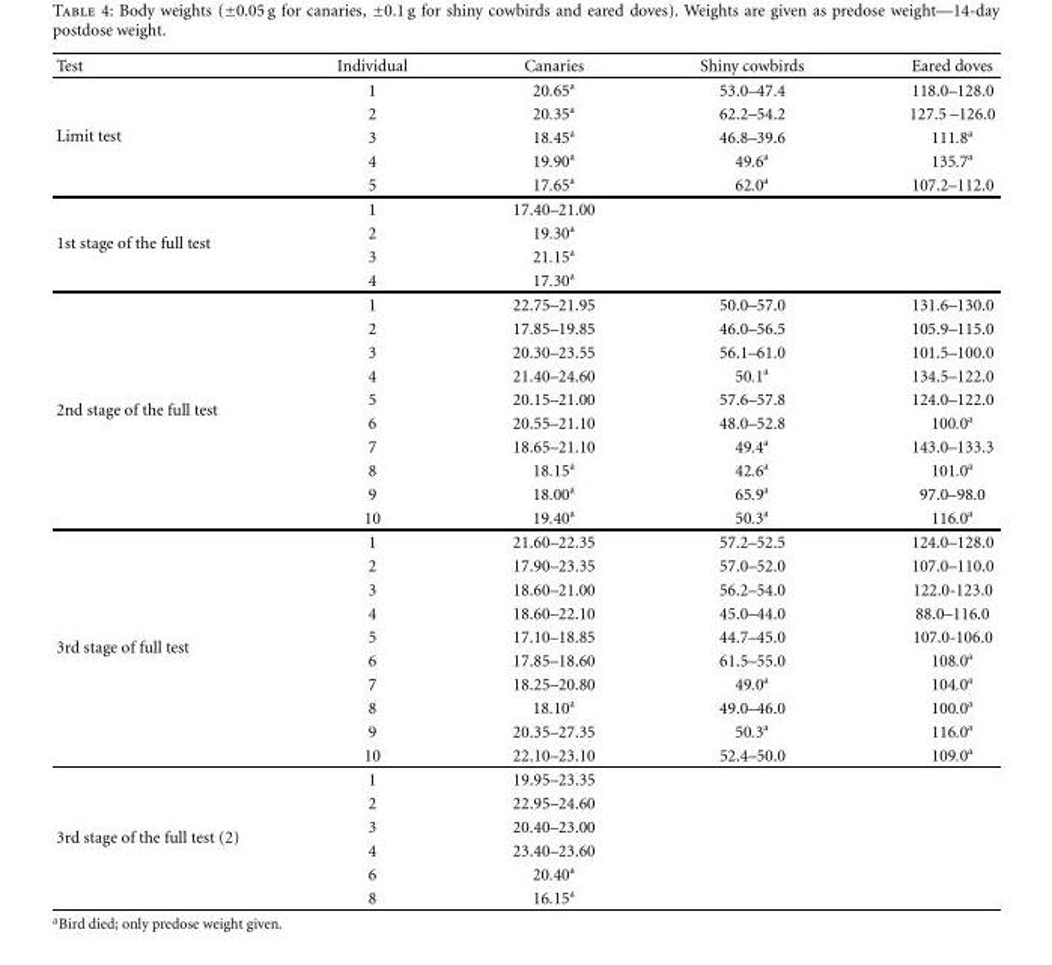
<table><thead><tr><td>Test</td><td>Individual</td><td>Canaries</td><td>Shiny cowbirds</td><td>Eared doves</td></tr></thead><tbody><tr><td rowspan="5">Limit test</td><td>1</td><td>20.65<sup>a</sup></td><td>53.0–47.4</td><td>118.0–128.0</td></tr><tr><td>2</td><td>20.35<sup>a</sup></td><td>62.2–54.2</td><td>127.5 –126.0</td></tr><tr><td>3</td><td>18.45<sup>a</sup></td><td>46.8–39.6</td><td>111.8<sup>a</sup></td></tr><tr><td>4</td><td>19.90<sup>a</sup></td><td>49.6<sup>a</sup></td><td>135.7<sup>a</sup></td></tr><tr><td>5</td><td>17.65<sup>a</sup></td><td>62.0<sup>a</sup></td><td>107.2–112.0</td></tr><tr><td rowspan="4">1st stage of the full test</td><td>1</td><td>17.40–21.00</td><td></td><td></td></tr><tr><td>2</td><td>19.30<sup>a</sup></td><td></td><td></td></tr><tr><td>3</td><td>21.15<sup>a</sup></td><td></td><td></td></tr><tr><td>4</td><td>17.30<sup>a</sup></td><td></td><td></td></tr><tr><td rowspan="10">2nd stage of the full test</td><td>1</td><td>22.75–21.95</td><td>50.0–57.0</td><td>131.6–130.0</td></tr><tr><td>2</td><td>17.85–19.85</td><td>46.0–56.5</td><td>105.9–115.0</td></tr><tr><td>3</td><td>20.30–23.55</td><td>56.1–61.0</td><td>101.5–100.0</td></tr><tr><td>4</td><td>21.40–24.60</td><td>50.1<sup>a</sup></td><td>134.5–122.0</td></tr><tr><td>5</td><td>20.15–21.00</td><td>57.6–57.8</td><td>124.0–122.0</td></tr><tr><td>6</td><td>20.55–21.10</td><td>48.0–52.8</td><td>100.0<sup>a</sup></td></tr><tr><td>7</td><td>18.65–21.10</td><td>49.4<sup>a</sup></td><td>143.0–133.3</td></tr><tr><td>8</td><td>18.15<sup>a</sup></td><td>42.6<sup>a</sup></td><td>101.0<sup>a</sup></td></tr><tr><td>9</td><td>18.00<sup>a</sup></td><td>65.9<sup>a</sup></td><td>97.0–98.0</td></tr><tr><td>10</td><td>19.40<sup>a</sup></td><td>50.3<sup>a</sup></td><td>116.0<sup>a</sup></td></tr><tr><td rowspan="10">3rd stage of full test</td><td>1</td><td>21.60–22.35</td><td>57.2–52.5</td><td>124.0–128.0</td></tr><tr><td>2</td><td>17.90–23.35</td><td>57.0–52.0</td><td>107.0–110.0</td></tr><tr><td>3</td><td>18.60–21.00</td><td>56.2–54.0</td><td>122.0-123.0</td></tr><tr><td>4</td><td>18.60–22.10</td><td>45.0–44.0</td><td>88.0–116.0</td></tr><tr><td>5</td><td>17.10–18.85</td><td>44.7–45.0</td><td>107.0-106.0</td></tr><tr><td>6</td><td>17.85–18.60</td><td>61.5–55.0</td><td>108.0<sup>a</sup></td></tr><tr><td>7</td><td>18.25–20.80</td><td>49.0<sup>a</sup></td><td>104.0<sup>a</sup></td></tr><tr><td>8</td><td>18.10<sup>a</sup></td><td>49.0–46.0</td><td>100.0<sup>a</sup></td></tr><tr><td>9</td><td>20.35–27.35</td><td>50.3<sup>a</sup></td><td>116.0<sup>a</sup></td></tr><tr><td>10</td><td>22.10–23.10</td><td>52.4–50.0</td><td>109.0<sup>a</sup></td></tr><tr><td rowspan="6">3rd stage of the full test (2)</td><td>1</td><td>19.95–23.35</td><td></td><td></td></tr><tr><td>2</td><td>22.95–24.60</td><td></td><td></td></tr><tr><td>3</td><td>20.40–23.00</td><td></td><td></td></tr><tr><td>4</td><td>23.40–23.60</td><td></td><td></td></tr><tr><td>6</td><td>20.40<sup>a</sup></td><td></td><td></td></tr><tr><td>8</td><td>16.15<sup>a</sup></td><td></td><td></td></tr></tbody></table>